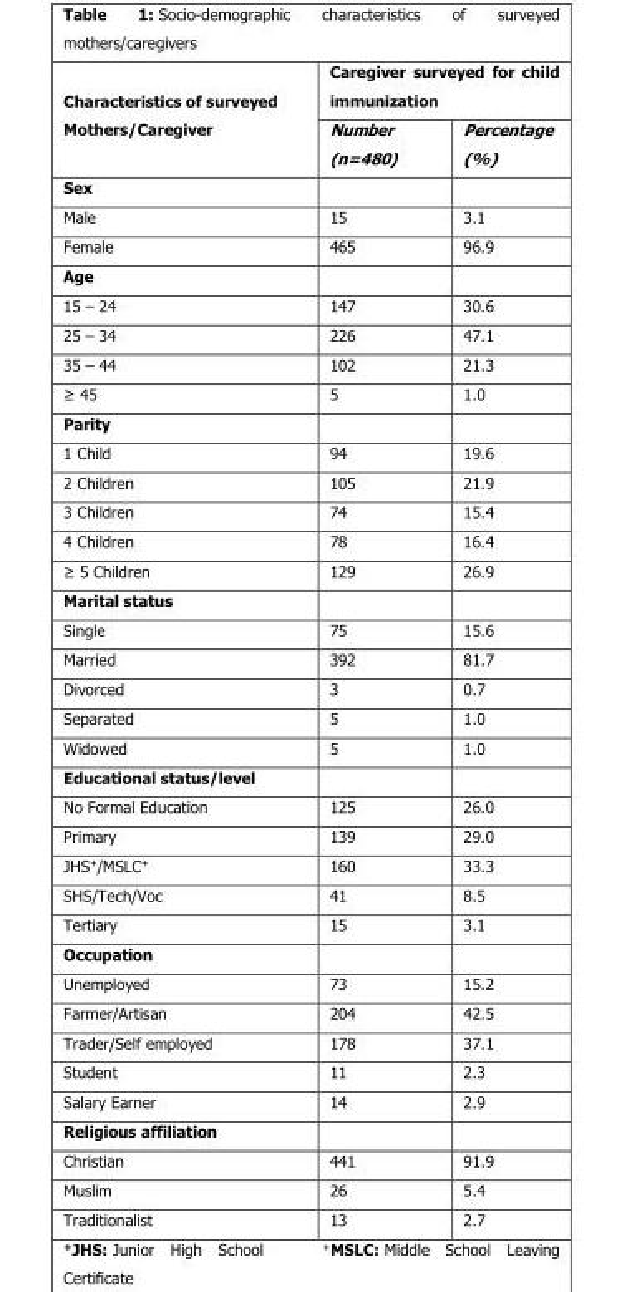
<table><thead><tr><td rowspan="2">Characteristics of surveyed Mothers/Caregiver</td><td colspan="2">Caregiver surveyed for child immunization</td></tr><tr><td>Number (n=480)</td><td>Percentage (%)</td></tr></thead><tbody><tr><td colspan="3">Sex</td></tr><tr><td>Male</td><td>15</td><td>3.1</td></tr><tr><td>Female</td><td>465</td><td>96.9</td></tr><tr><td colspan="3">Age</td></tr><tr><td>15 – 24</td><td>147</td><td>30.6</td></tr><tr><td>25 – 34</td><td>226</td><td>47.1</td></tr><tr><td>35 – 44</td><td>102</td><td>21.3</td></tr><tr><td>≥ 45</td><td>5</td><td>1.0</td></tr><tr><td colspan="3">Parity</td></tr><tr><td>1 Child</td><td>94</td><td>19.6</td></tr><tr><td>2 Children</td><td>105</td><td>21.9</td></tr><tr><td>3 Children</td><td>74</td><td>15.4</td></tr><tr><td>4 Children</td><td>78</td><td>16.4</td></tr><tr><td>≥ 5 Children</td><td>129</td><td>26.9</td></tr><tr><td colspan="3">Marital status</td></tr><tr><td>Single</td><td>75</td><td>15.6</td></tr><tr><td>Married</td><td>392</td><td>81.7</td></tr><tr><td>Divorced</td><td>3</td><td>0.7</td></tr><tr><td>Separated</td><td>5</td><td>1.0</td></tr><tr><td>Widowed</td><td>5</td><td>1.0</td></tr><tr><td colspan="3">Educational status/level</td></tr><tr><td>No Formal Education</td><td>125</td><td>26.0</td></tr><tr><td>Primary</td><td>139</td><td>29.0</td></tr><tr><td>JHS+/MSLC+</td><td>160</td><td>33.3</td></tr><tr><td>SHS/Tech/Voc</td><td>41</td><td>8.5</td></tr><tr><td>Tertiary</td><td>15</td><td>3.1</td></tr><tr><td colspan="3">Occupation</td></tr><tr><td>Unemployed</td><td>73</td><td>15.2</td></tr><tr><td>Farmer/Artisan</td><td>204</td><td>42.5</td></tr><tr><td>Trader/Self employed</td><td>178</td><td>37.1</td></tr><tr><td>Student</td><td>11</td><td>2.3</td></tr><tr><td>Salary Earner</td><td>14</td><td>2.9</td></tr><tr><td colspan="3">Religious affiliation</td></tr><tr><td>Christian</td><td>441</td><td>91.9</td></tr><tr><td>Muslim</td><td>26</td><td>5.4</td></tr><tr><td>Traditionalist</td><td>13</td><td>2.7</td></tr></tbody></table>